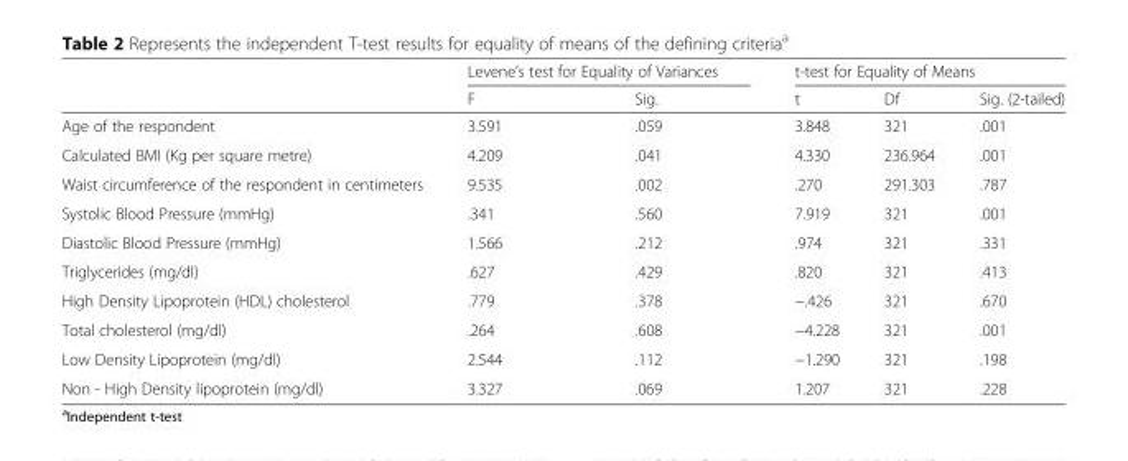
<table><thead><tr><td rowspan="2"></td><td colspan="2">Levene’s test for Equality of Variances</td><td colspan="3">t-test for Equality of Means</td></tr><tr><td>F</td><td>Sig.</td><td>t</td><td>Df</td><td>Sig. (2-tailed)</td></tr></thead><tbody><tr><td>Age of the respondent</td><td>3.591</td><td>.059</td><td>3.848</td><td>321</td><td>.001</td></tr><tr><td>Calculated BMI (Kg per square metre)</td><td>4.209</td><td>.041</td><td>4.330</td><td>236.964</td><td>.001</td></tr><tr><td>Waist circumference of the respondent in centimeters</td><td>9.535</td><td>.002</td><td>.270</td><td>291.303</td><td>.787</td></tr><tr><td>Systolic Blood Pressure (mmHg)</td><td>.341</td><td>.560</td><td>7.919</td><td>321</td><td>.001</td></tr><tr><td>Diastolic Blood Pressure (mmHg)</td><td>1.566</td><td>.212</td><td>.974</td><td>321</td><td>.331</td></tr><tr><td>Triglycerides (mg/dl)</td><td>.627</td><td>.429</td><td>.820</td><td>321</td><td>.413</td></tr><tr><td>High Density Lipoprotein (HDL) cholesterol</td><td>.779</td><td>.378</td><td>−.426</td><td>321</td><td>.670</td></tr><tr><td>Total cholesterol (mg/dl)</td><td>.264</td><td>.608</td><td>−4.228</td><td>321</td><td>.001</td></tr><tr><td>Low Density Lipoprotein (mg/dl)</td><td>2.544</td><td>.112</td><td>−1.290</td><td>321</td><td>.198</td></tr><tr><td>Non - High Density lipoprotein (mg/dl)</td><td>3.327</td><td>.069</td><td>1.207</td><td>321</td><td>.228</td></tr></tbody></table>